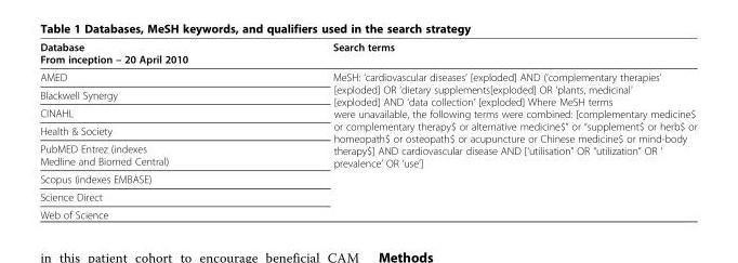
<table><thead><tr><td>Database From inception – 20 April 2010</td><td>Search terms</td></tr></thead><tbody><tr><td>AMED</td><td rowspan="8">MeSH: ‘cardiovascular diseases’ [exploded] AND (‘complementary therapies’ [exploded] OR ‘dietary supplements[exploded] OR ‘plants, medicinal’ [exploded] AND ‘data collection’ [exploded] Where MeSH terms were unavailable, the following terms were combined: [complementary medicine$ or complementary therapy$ or alternative medicine$” or “supplement$ or herb$ or homeopath$ or osteopath$ or acupuncture or Chinese medicine$ or mind-body therapy$] AND cardiovascular disease AND [‘utilisation” OR “utilization” OR ‘ prevalence’ OR ‘use’]</td></tr><tr><td>Blackwell Synergy</td></tr><tr><td>CINAHL</td></tr><tr><td>Health &amp; Society</td></tr><tr><td>PubMED Entrez (indexes Medline and Biomed Central)</td></tr><tr><td>Scopus (indexes EMBASE)</td></tr><tr><td>Science Direct</td></tr><tr><td>Web of Science</td></tr></tbody></table>